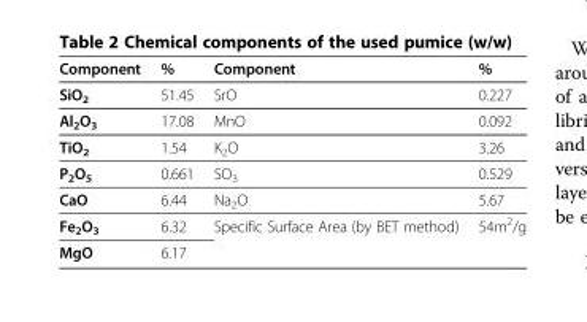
<table><thead><tr><td>Component</td><td>%</td><td>Component</td><td>%</td></tr></thead><tbody><tr><td>SiO<sub>2</sub></td><td>51.45</td><td>SrO</td><td>0.227</td></tr><tr><td>Al<sub>2</sub>O<sub>3</sub></td><td>17.08</td><td>MnO</td><td>0.092</td></tr><tr><td>TiO<sub>2</sub></td><td>1.54</td><td>K<sub>2</sub>O</td><td>3.26</td></tr><tr><td>P<sub>2</sub>O<sub>5</sub></td><td>0.661</td><td>SO<sub>3</sub></td><td>0.529</td></tr><tr><td>CaO</td><td>6.44</td><td>Na<sub>2</sub>O</td><td>5.67</td></tr><tr><td>Fe<sub>2</sub>O<sub>3</sub></td><td>6.32</td><td rowspan="2">Specific Surface Area (by BET method)</td><td rowspan="2">54m<sup>2</sup>/g</td></tr><tr><td>MgO</td><td>6.17</td></tr></tbody></table>